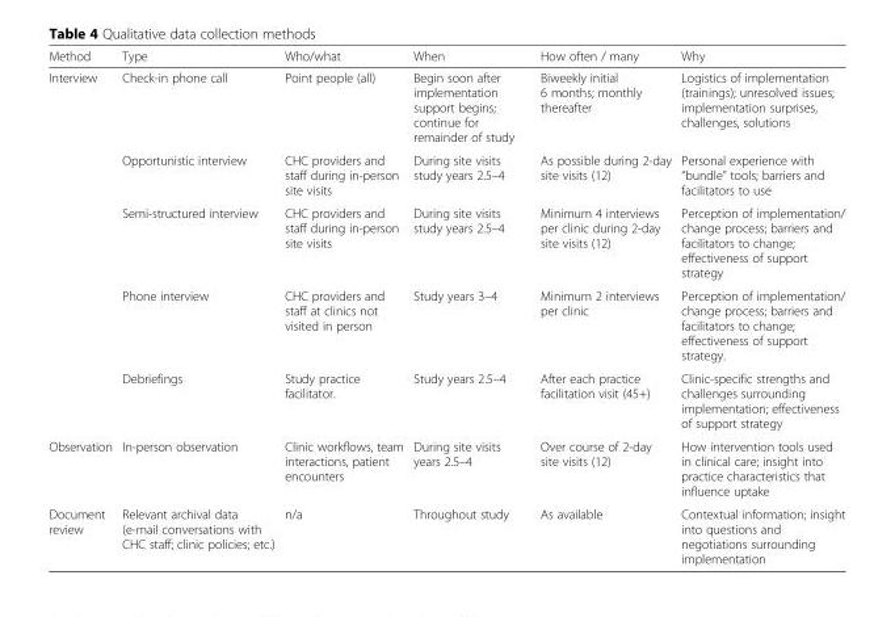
<table><thead><tr><td>Method</td><td>Type</td><td>Who/what</td><td>When</td><td>How often / many</td><td>Why</td></tr></thead><tbody><tr><td rowspan="5">Interview</td><td>Check-in phone call</td><td>Point people (all)</td><td>Begin soon after implementation support begins; continue for remainder of study</td><td>Biweekly initial 6 months; monthly thereafter</td><td>Logistics of implementation (trainings); unresolved issues; implementation surprises, challenges, solutions</td></tr><tr><td>Opportunistic interview</td><td>CHC providers and staff during in-person site visits</td><td>During site visits study years 2.5–4</td><td>As possible during 2-day site visits (12)</td><td>Personal experience with “bundle” tools; barriers and facilitators to use</td></tr><tr><td>Semi-structured interview</td><td>CHC providers and staff during in-person site visits</td><td>During site visits study years 2.5–4</td><td>Minimum 4 interviews per clinic during 2-day site visits (12)</td><td>Perception of implementation/ change process; barriers and facilitators to change; effectiveness of support strategy</td></tr><tr><td>Phone interview</td><td>CHC providers and staff at clinics not visited in person</td><td>Study years 3–4</td><td>Minimum 2 interviews per clinic</td><td>Perception of implementation/ change process; barriers and facilitators to change; effectiveness of support strategy.</td></tr><tr><td>Debriefings</td><td>Study practice facilitator.</td><td>Study years 2.5–4</td><td>After each practice facilitation visit (45+)</td><td>Clinic-specific strengths and challenges surrounding implementation; effectiveness of support strategy</td></tr><tr><td>Observation</td><td>In-person observation</td><td>Clinic workflows, team interactions, patient encounters</td><td>During site visits years 2.5–4</td><td>Over course of 2-day site visits (12)</td><td>How intervention tools used in clinical care; insight into practice characteristics that influence uptake</td></tr><tr><td>Document review</td><td>Relevant archival data (e-mail conversations with CHC staff; clinic policies; etc.)</td><td>n/a</td><td>Throughout study</td><td>As available</td><td>Contextual information; insight into questions and negotiations surrounding implementation</td></tr></tbody></table>